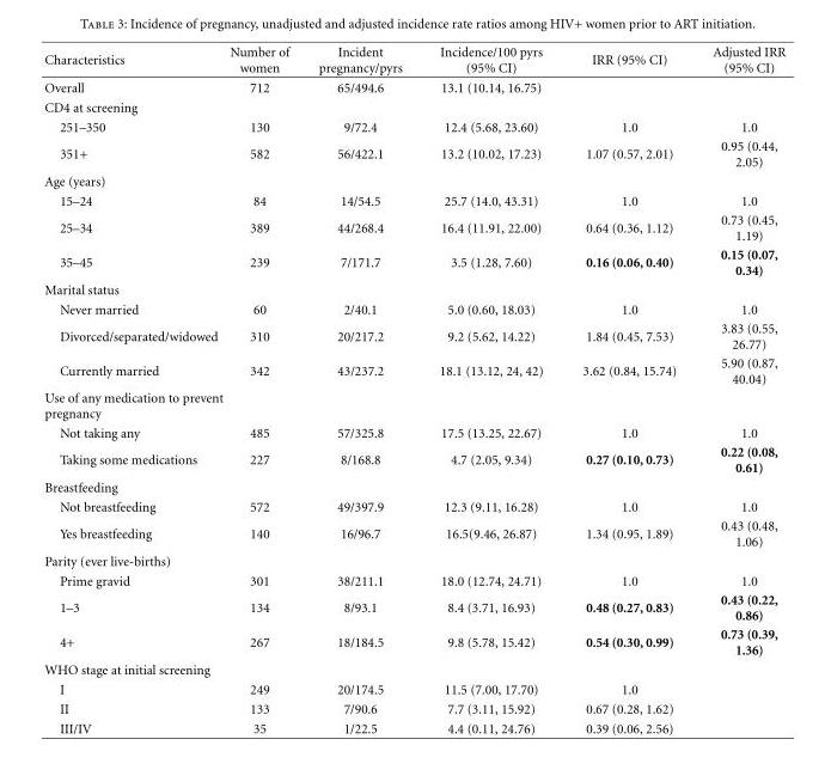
<table><thead><tr><td>Characteristics</td><td>Number of women</td><td>Incident pregnancy/pyrs</td><td>Incidence/100 pyrs (95% CI)</td><td>IRR (95% CI)</td><td>Adjusted IRR (95% CI)</td></tr></thead><tbody><tr><td>Overall</td><td>712</td><td>65/494.6</td><td>13.1 (10.14, 16.75)</td><td></td><td></td></tr><tr><td colspan="6">CD4 at screening</td></tr><tr><td>251–350</td><td>130</td><td>9/72.4</td><td>12.4 (5.68, 23.60)</td><td>1.0</td><td>1.0</td></tr><tr><td>351+</td><td>582</td><td>56/422.1</td><td>13.2 (10.02, 17.23)</td><td>1.07 (0.57, 2.01)</td><td>0.95 (0.44, 2.05)</td></tr><tr><td colspan="6">Age (years)</td></tr><tr><td>15–24</td><td>84</td><td>14/54.5</td><td>25.7 (14.0, 43.31)</td><td>1.0</td><td>1.0</td></tr><tr><td>25–34</td><td>389</td><td>44/268.4</td><td>16.4 (11.91, 22.00)</td><td>0.64 (0.36, 1.12)</td><td>0.73 (0.45, 1.19)</td></tr><tr><td>35–45</td><td>239</td><td>7/171.7</td><td>3.5 (1.28, 7.60)</td><td>0.16 (0.06, 0.40)</td><td>0.15 (0.07, 0.34)</td></tr><tr><td colspan="6">Marital status</td></tr><tr><td>Never married</td><td>60</td><td>2/40.1</td><td>5.0 (0.60, 18.03)</td><td>1.0</td><td>1.0</td></tr><tr><td>Divorced/separated/widowed</td><td>310</td><td>20/217.2</td><td>9.2 (5.62, 14.22)</td><td>1.84 (0.45, 7.53)</td><td>3.83 (0.55, 26.77)</td></tr><tr><td>Currently married</td><td>342</td><td>43/237.2</td><td>18.1 (13.12, 24, 42)</td><td>3.62 (0.84, 15.74)</td><td>5.90 (0.87, 40.04)</td></tr><tr><td colspan="6">Use of any medication to prevent pregnancy</td></tr><tr><td>Not taking any</td><td>485</td><td>57/325.8</td><td>17.5 (13.25, 22.67)</td><td>1.0</td><td>1.0</td></tr><tr><td>Taking some medications</td><td>227</td><td>8/168.8</td><td>4.7 (2.05, 9.34)</td><td>0.27 (0.10, 0.73)</td><td>0.22 (0.08, 0.61)</td></tr><tr><td colspan="6">Breastfeeding</td></tr><tr><td>Not breastfeeding</td><td>572</td><td>49/397.9</td><td>12.3 (9.11, 16.28)</td><td>1.0</td><td>1.0</td></tr><tr><td>Yes breastfeeding</td><td>140</td><td>16/96.7</td><td>16.5(9.46, 26.87)</td><td>1.34 (0.95, 1.89)</td><td>0.43 (0.48, 1.06)</td></tr><tr><td colspan="6">Parity (ever live-births)</td></tr><tr><td>Prime gravid</td><td>301</td><td>38/211.1</td><td>18.0 (12.74, 24.71)</td><td>1.0</td><td>1.0</td></tr><tr><td>1–3</td><td>134</td><td>8/93.1</td><td>8.4 (3.71, 16.93)</td><td>0.48 (0.27, 0.83)</td><td>0.43 (0.22, 0.86)</td></tr><tr><td>4+</td><td>267</td><td>18/184.5</td><td>9.8 (5.78, 15.42)</td><td>0.54 (0.30, 0.99)</td><td>0.73 (0.39, 1.36)</td></tr><tr><td colspan="6">WHO stage at initial screening</td></tr><tr><td>I</td><td>249</td><td>20/174.5</td><td>11.5 (7.00, 17.70)</td><td>1.0</td><td></td></tr><tr><td>II</td><td>133</td><td>7/90.6</td><td>7.7 (3.11, 15.92)</td><td>0.67 (0.28, 1.62)</td><td></td></tr><tr><td>III/IV</td><td>35</td><td>1/22.5</td><td>4.4 (0.11, 24.76)</td><td>0.39 (0.06, 2.56)</td><td></td></tr></tbody></table>